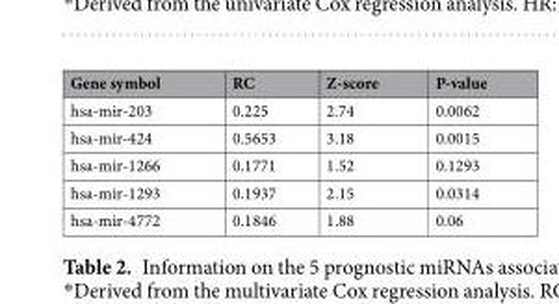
<table><thead><tr><td>Gene symbol</td><td>RC</td><td>Z-score</td><td>P-value</td></tr></thead><tbody><tr><td>hsa-mir-203</td><td>0.225</td><td>2.74</td><td>0.0062</td></tr><tr><td>hsa-mir-424</td><td>0.5653</td><td>3.18</td><td>0.0015</td></tr><tr><td>hsa-mir-1266</td><td>0.1771</td><td>1.52</td><td>0.1293</td></tr><tr><td>hsa-mir-1293</td><td>0.1937</td><td>2.15</td><td>0.0314</td></tr><tr><td>hsa-mir-4772</td><td>0.1846</td><td>1.88</td><td>0.06</td></tr></tbody></table>